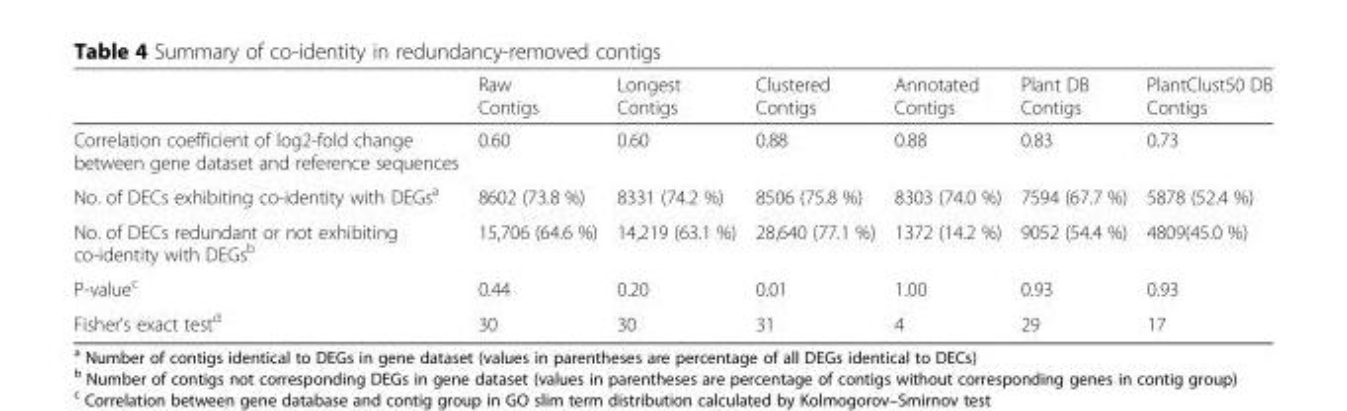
<table><thead><tr><td></td><td>Raw Contigs</td><td>Longest Contigs</td><td>Clustered Contigs</td><td>Annotated Contigs</td><td>Plant DB Contigs</td><td>PlantClust50 DB Contigs</td></tr></thead><tbody><tr><td>Correlation coefficient of log2-fold change between gene dataset and reference sequences</td><td>0.60</td><td>0.60</td><td>0.88</td><td>0.88</td><td>0.83</td><td>0.73</td></tr><tr><td>No. of DECs exhibiting co-identity with DEGs<sup>a</sup></td><td>8602 (73.8 %)</td><td>8331 (74.2 %)</td><td>8506 (75.8 %)</td><td>8303 (74.0 %)</td><td>7594 (67.7 %)</td><td>5878 (52.4 %)</td></tr><tr><td>No. of DECs redundant or not exhibiting co-identity with DEGs<sup>b</sup></td><td>15,706 (64.6 %)</td><td>14,219 (63.1 %)</td><td>28,640 (77.1 %)</td><td>1372 (14.2 %)</td><td>9052 (54.4 %)</td><td>4809(45.0 %)</td></tr><tr><td>P-value<sup>c</sup></td><td>0.44</td><td>0.20</td><td>0.01</td><td>1.00</td><td>0.93</td><td>0.93</td></tr><tr><td>Fisher’s exact test<sup>d</sup></td><td>30</td><td>30</td><td>31</td><td>4</td><td>29</td><td>17</td></tr></tbody></table>